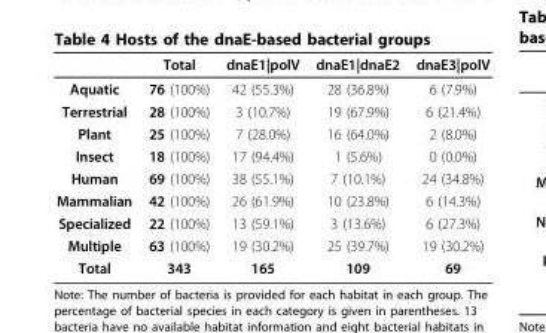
<table><thead><tr><td></td><td>Total</td><td>dnaE1|polV</td><td>dnaE1|dnaE2</td><td>dnaE3|polV</td></tr></thead><tbody><tr><td>Aquatic</td><td>76 (100%)</td><td>42 (55.3%)</td><td>28 (36.8%)</td><td>6 (7.9%)</td></tr><tr><td>Terrestrial</td><td>28 (100%)</td><td>3 (10.7%)</td><td>19 (67.9%)</td><td>6 (21.4%)</td></tr><tr><td>Plant</td><td>25 (100%)</td><td>7 (28.0%)</td><td>16 (64.0%)</td><td>2 (8.0%)</td></tr><tr><td>Insect</td><td>18 (100%)</td><td>17 (94.4%)</td><td>1 (5.6%)</td><td>0 (0.0%)</td></tr><tr><td>Human</td><td>69 (100%)</td><td>38 (55.1%)</td><td>7 (10.1%)</td><td>24 (34.8%)</td></tr><tr><td>Mammalian</td><td>42 (100%)</td><td>26 (61.9%)</td><td>10 (23.8%)</td><td>6 (14.3%)</td></tr><tr><td>Specialized</td><td>22 (100%)</td><td>13 (59.1%)</td><td>3 (13.6%)</td><td>6 (27.3%)</td></tr><tr><td>Multiple</td><td>63 (100%)</td><td>19 (30.2%)</td><td>25 (39.7%)</td><td>19 (30.2%)</td></tr><tr><td>Total</td><td>343</td><td>165</td><td>109</td><td>69</td></tr></tbody></table>